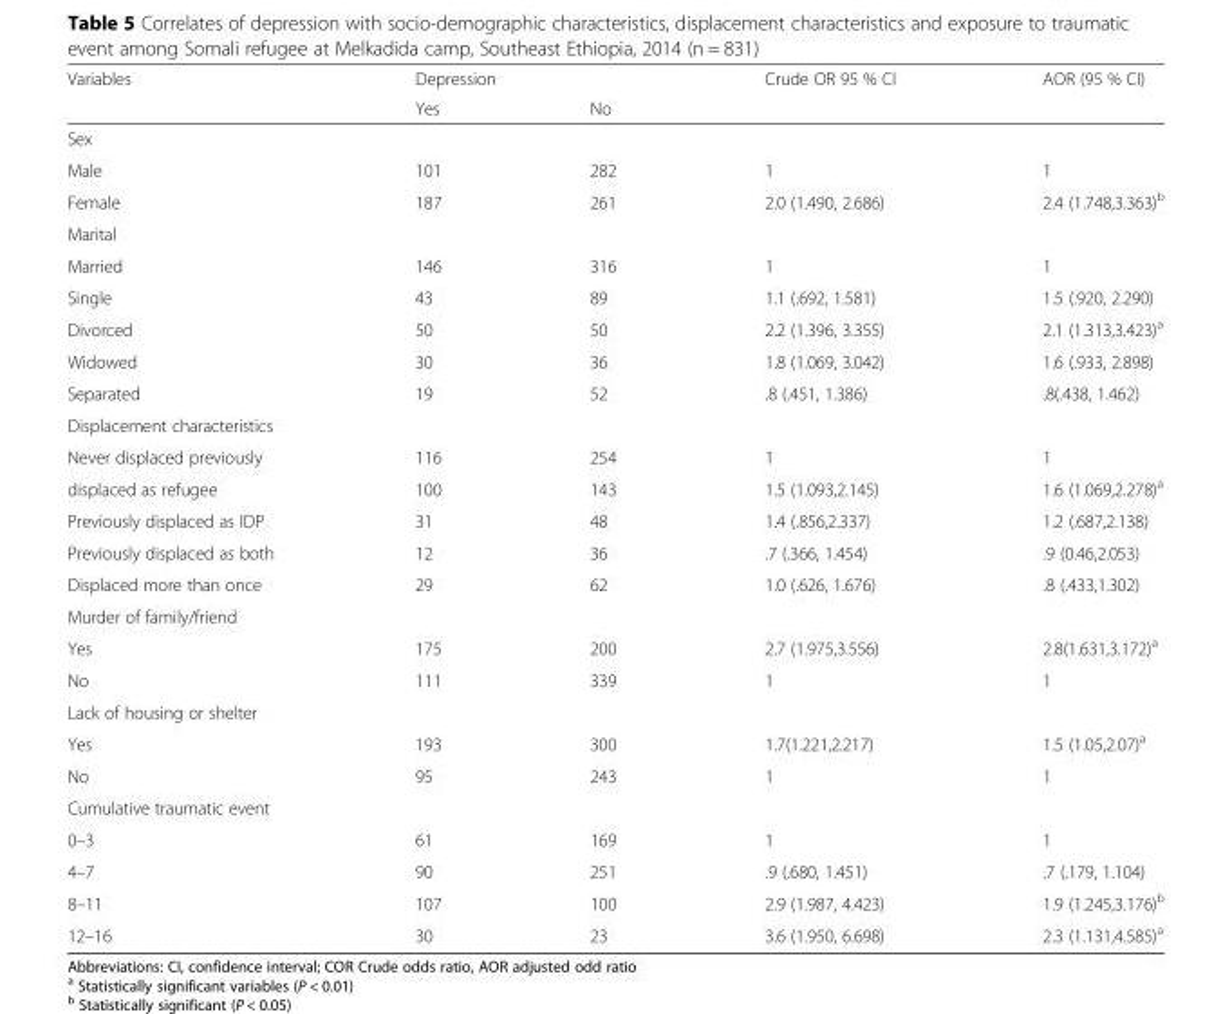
<table><thead><tr><td rowspan="2">Variables</td><td colspan="2">Depression</td><td rowspan="2">Crude OR 95 % CI</td><td rowspan="2">AOR (95 % CI)</td></tr><tr><td>Yes</td><td>No</td></tr></thead><tbody><tr><td colspan="5">Sex</td></tr><tr><td>Male</td><td>101</td><td>282</td><td>1</td><td>1</td></tr><tr><td>Female</td><td>187</td><td>261</td><td>2.0 (1.490, 2.686)</td><td>2.4 (1.748,3.363)<sup>b</sup></td></tr><tr><td colspan="5">Marital</td></tr><tr><td>Married</td><td>146</td><td>316</td><td>1</td><td>1</td></tr><tr><td>Single</td><td>43</td><td>89</td><td>1.1 (.692, 1.581)</td><td>1.5 (.920, 2.290)</td></tr><tr><td>Divorced</td><td>50</td><td>50</td><td>2.2 (1.396, 3.355)</td><td>2.1 (1.313,3.423)<sup>a</sup></td></tr><tr><td>Widowed</td><td>30</td><td>36</td><td>1.8 (1.069, 3.042)</td><td>1.6 (.933, 2.898)</td></tr><tr><td>Separated</td><td>19</td><td>52</td><td>.8 (.451, 1.386)</td><td>.8(.438, 1.462)</td></tr><tr><td colspan="5">Displacement characteristics</td></tr><tr><td>Never displaced previously</td><td>116</td><td>254</td><td>1</td><td>1</td></tr><tr><td>displaced as refugee</td><td>100</td><td>143</td><td>1.5 (1.093,2.145)</td><td>1.6 (1.069,2.278)<sup>a</sup></td></tr><tr><td>Previously displaced as IDP</td><td>31</td><td>48</td><td>1.4 (.856,2.337)</td><td>1.2 (.687,2.138)</td></tr><tr><td>Previously displaced as both</td><td>12</td><td>36</td><td>.7 (.366, 1.454)</td><td>.9 (0.46,2.053)</td></tr><tr><td>Displaced more than once</td><td>29</td><td>62</td><td>1.0 (.626, 1.676)</td><td>.8 (.433,1.302)</td></tr><tr><td colspan="5">Murder of family/friend</td></tr><tr><td>Yes</td><td>175</td><td>200</td><td>2.7 (1.975,3.556)</td><td>2.8(1.631,3.172)<sup>a</sup></td></tr><tr><td>No</td><td>111</td><td>339</td><td>1</td><td>1</td></tr><tr><td colspan="5">Lack of housing or shelter</td></tr><tr><td>Yes</td><td>193</td><td>300</td><td>1.7(1.221,2.217)</td><td>1.5 (1.05,2.07)<sup>a</sup></td></tr><tr><td>No</td><td>95</td><td>243</td><td>1</td><td>1</td></tr><tr><td colspan="5">Cumulative traumatic event</td></tr><tr><td>0–3</td><td>61</td><td>169</td><td>1</td><td>1</td></tr><tr><td>4–7</td><td>90</td><td>251</td><td>.9 (.680, 1.451)</td><td>.7 (.179, 1.104)</td></tr><tr><td>8–11</td><td>107</td><td>100</td><td>2.9 (1.987, 4.423)</td><td>1.9 (1.245,3.176)<sup>b</sup></td></tr><tr><td>12–16</td><td>30</td><td>23</td><td>3.6 (1.950, 6.698)</td><td>2.3 (1.131,4.585)<sup>a</sup></td></tr></tbody></table>